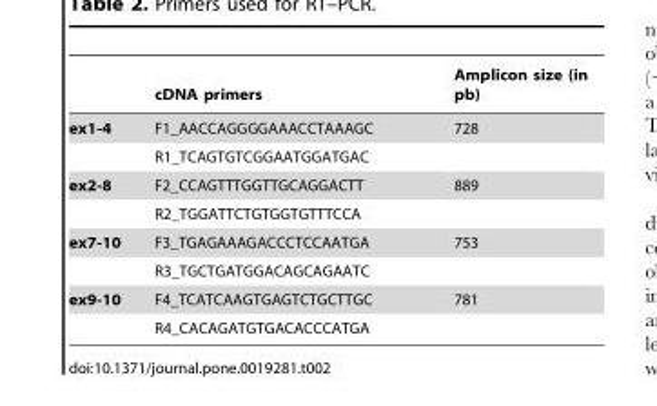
<table><thead><tr><td></td><td>cDNA primers</td><td>Amplicon size (in pb)</td></tr></thead><tbody><tr><td rowspan="2">ex1-4</td><td>F1_AACCAGGGGAAACCTAAAGC</td><td>728</td></tr><tr><td>R1_TCAGTGTCGGAATGGATGAC</td><td></td></tr><tr><td rowspan="2">ex2-8</td><td>F2_CCAGTTTGGTTGCAGGACTT</td><td>889</td></tr><tr><td>R2_TGGATTCTGTGGTGTTTCCA</td><td></td></tr><tr><td rowspan="2">ex7-10</td><td>F3_TGAGAAAGACCCTCCAATGA</td><td>753</td></tr><tr><td>R3_TGCTGATGGACAGCAGAATC</td><td></td></tr><tr><td rowspan="2">ex9-10</td><td>F4_TCATCAAGTGAGTCTGCTTGC</td><td>781</td></tr><tr><td>R4_CACAGATGTGACACCCATGA</td><td></td></tr></tbody></table>